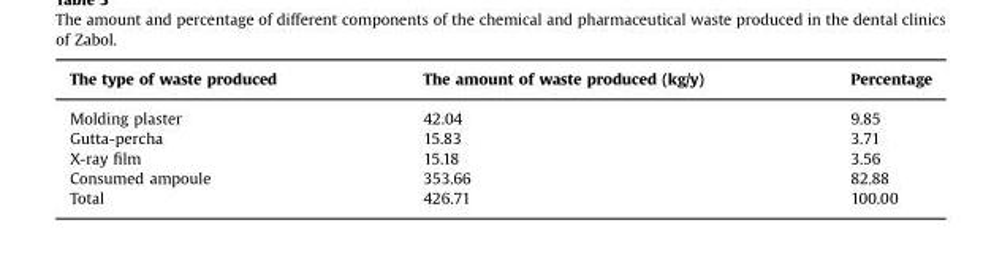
<table><thead><tr><td>The type of waste produced</td><td>The amount of waste produced (kg/y)</td><td>Percentage</td></tr></thead><tbody><tr><td>Molding plaster</td><td>42.04</td><td>9.85</td></tr><tr><td>Gutta-percha</td><td>15.83</td><td>3.71</td></tr><tr><td>X-ray film</td><td>15.18</td><td>3.56</td></tr><tr><td>Consumed ampoule</td><td>353.66</td><td>82.88</td></tr><tr><td>Total</td><td>426.71</td><td>100.00</td></tr></tbody></table>